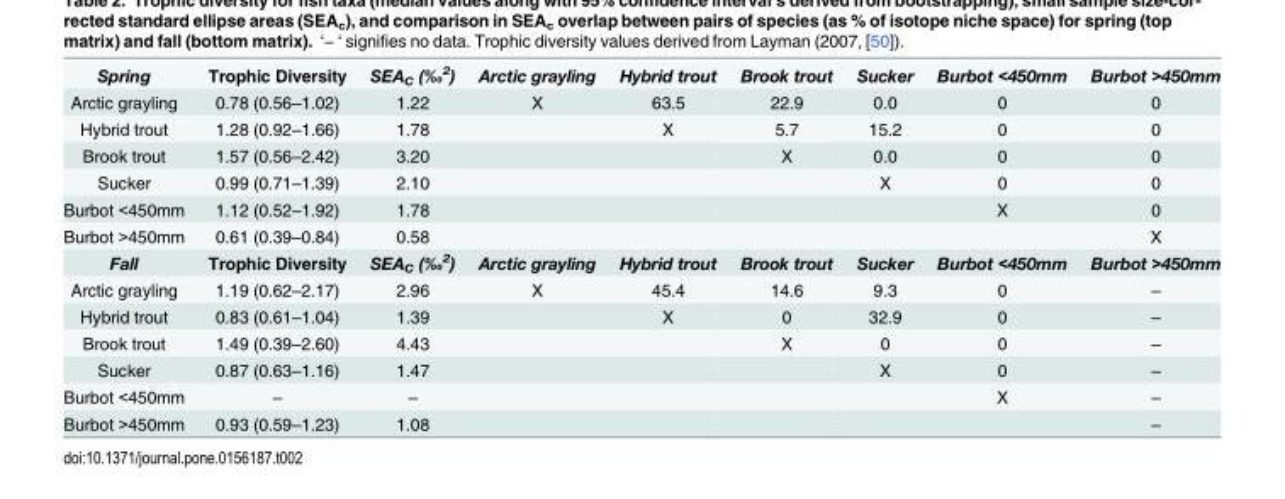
<table><tbody><tr><td>Spring</td><td>Trophic Diversity</td><td>SEA<sub>C</sub> (‰<sup>2</sup>)</td><td>Arctic grayling</td><td>Hybrid trout</td><td>Brook trout</td><td>Sucker</td><td>Burbot &lt;450mm</td><td>Burbot &gt;450mm</td></tr><tr><td>Arctic grayling</td><td>0.78 (0.56–1.02)</td><td>1.22</td><td>X</td><td>63.5</td><td>22.9</td><td>0.0</td><td>0</td><td>0</td></tr><tr><td>Hybrid trout</td><td>1.28 (0.92–1.66)</td><td>1.78</td><td></td><td>X</td><td>5.7</td><td>15.2</td><td>0</td><td>0</td></tr><tr><td>Brook trout</td><td>1.57 (0.56–2.42)</td><td>3.20</td><td></td><td></td><td>X</td><td>0.0</td><td>0</td><td>0</td></tr><tr><td>Sucker</td><td>0.99 (0.71–1.39)</td><td>2.10</td><td></td><td></td><td></td><td>X</td><td>0</td><td>0</td></tr><tr><td>Burbot &lt;450mm</td><td>1.12 (0.52–1.92)</td><td>1.78</td><td></td><td></td><td></td><td></td><td>X</td><td>0</td></tr><tr><td>Burbot &gt;450mm</td><td>0.61 (0.39–0.84)</td><td>0.58</td><td></td><td></td><td></td><td></td><td></td><td>X</td></tr><tr><td>Fall</td><td>Trophic Diversity</td><td>SEA<sub>C</sub> (‰<sup>2</sup>)</td><td>Arctic grayling</td><td>Hybrid trout</td><td>Brook trout</td><td>Sucker</td><td>Burbot &lt;450mm</td><td>Burbot &gt;450mm</td></tr><tr><td>Arctic grayling</td><td>1.19 (0.62–2.17)</td><td>2.96</td><td>X</td><td>45.4</td><td>14.6</td><td>9.3</td><td>0</td><td>–</td></tr><tr><td>Hybrid trout</td><td>0.83 (0.61–1.04)</td><td>1.39</td><td></td><td>X</td><td>0</td><td>32.9</td><td>0</td><td>–</td></tr><tr><td>Brook trout</td><td>1.49 (0.39–2.60)</td><td>4.43</td><td></td><td></td><td>X</td><td>0</td><td>0</td><td>–</td></tr><tr><td>Sucker</td><td>0.87 (0.63–1.16)</td><td>1.47</td><td></td><td></td><td></td><td>X</td><td>0</td><td>–</td></tr><tr><td>Burbot &lt;450mm</td><td>–</td><td>–</td><td></td><td></td><td></td><td></td><td>X</td><td>–</td></tr><tr><td>Burbot &gt;450mm</td><td>0.93 (0.59–1.23)</td><td>1.08</td><td></td><td></td><td></td><td></td><td></td><td>–</td></tr></tbody></table>